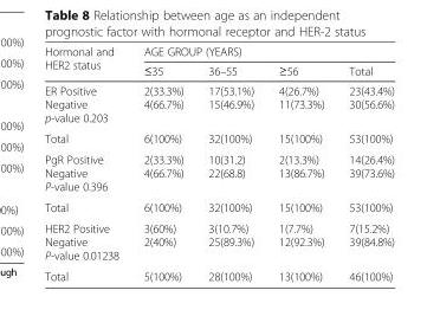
<table><thead><tr><td rowspan="2">Hormonal and HER2 status</td><td colspan="4">AGE GROUP (YEARS)</td></tr><tr><td>≤35</td><td>36–55</td><td>≥56</td><td>Total</td></tr></thead><tbody><tr><td>ER Positive Negative p-value 0.203</td><td>2(33.3%) 4(66.7%)</td><td>17(53.1%) 15(46.9%)</td><td>4(26.7%) 11(73.3%)</td><td>23(43.4%) 30(56.6%)</td></tr><tr><td>Total</td><td>6(100%)</td><td>32(100%)</td><td>15(100%)</td><td>53(100%)</td></tr><tr><td>PgR Positive Negative P-value 0.396</td><td>2(33.3%) 4(66.7%)</td><td>10(31.2) 22(68.8)</td><td>2(13.3%) 13(86.7%)</td><td>14(26.4%) 39(73.6%)</td></tr><tr><td>Total</td><td>6(100%)</td><td>32(100%)</td><td>15(100%)</td><td>53(100%)</td></tr><tr><td>HER2 Positive Negative P-value 0.01238</td><td>3(60%) 2(40%)</td><td>3(10.7%) 25(89.3%)</td><td>1(7.7%) 12(92.3%)</td><td>7(15.2%) 39(84.8%)</td></tr><tr><td>Total</td><td>5(100%)</td><td>28(100%)</td><td>13(100%)</td><td>46(100%)</td></tr></tbody></table>